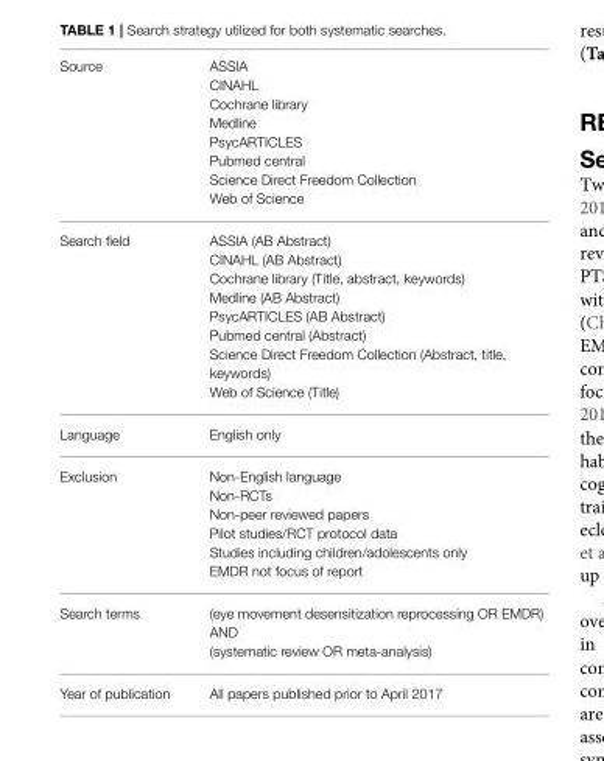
<table><tbody><tr><td>Source</td><td>ASSIA CINAHL Cochrane library Medline PsycARTICLES Pubmed central Science Direct Freedom Collection Web of Science</td></tr><tr><td>Search field</td><td>ASSIA (AB Abstract) CINAHL (AB Abstract) Cochrane library (Title, abstract, keywords) Medline (AB Abstract) PsycARTICLES (AB Abstract) Pubmed central (Abstract) Science Direct Freedom Collection (Abstract, title, keywords) Web of Science (Title)</td></tr><tr><td>Language</td><td>English only</td></tr><tr><td>Exclusion</td><td>Non-English language Non-RCTs Non-peer reviewed papers Pilot studies/RCT protocol data Studies including children/adolescents only EMDR not focus of report</td></tr><tr><td>Search terms</td><td>(eye movement desensitization reprocessing OR EMDR) AND (systematic review OR meta-analysis)</td></tr><tr><td>Year of publication</td><td>All papers published prior to April 2017</td></tr></tbody></table>